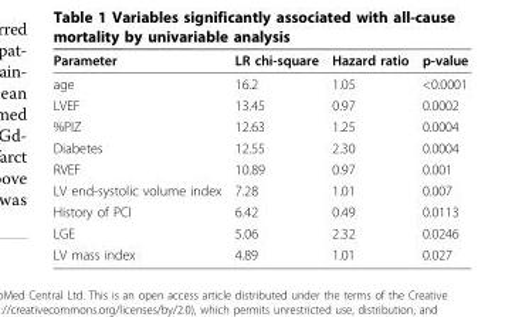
<table><thead><tr><td>Parameter</td><td>LR chi-square</td><td>Hazard ratio</td><td>p-value</td></tr></thead><tbody><tr><td>age</td><td>16.2</td><td>1.05</td><td>&lt;0.0001</td></tr><tr><td>LVEF</td><td>13.45</td><td>0.97</td><td>0.0002</td></tr><tr><td>%PIZ</td><td>12.63</td><td>1.25</td><td>0.0004</td></tr><tr><td>Diabetes</td><td>12.55</td><td>2.30</td><td>0.0004</td></tr><tr><td>RVEF</td><td>10.89</td><td>0.97</td><td>0.001</td></tr><tr><td>LV end-systolic volume index</td><td>7.28</td><td>1.01</td><td>0.007</td></tr><tr><td>History of PCI</td><td>6.42</td><td>0.49</td><td>0.0113</td></tr><tr><td>LGE</td><td>5.06</td><td>2.32</td><td>0.0246</td></tr><tr><td>LV mass index</td><td>4.89</td><td>1.01</td><td>0.027</td></tr></tbody></table>